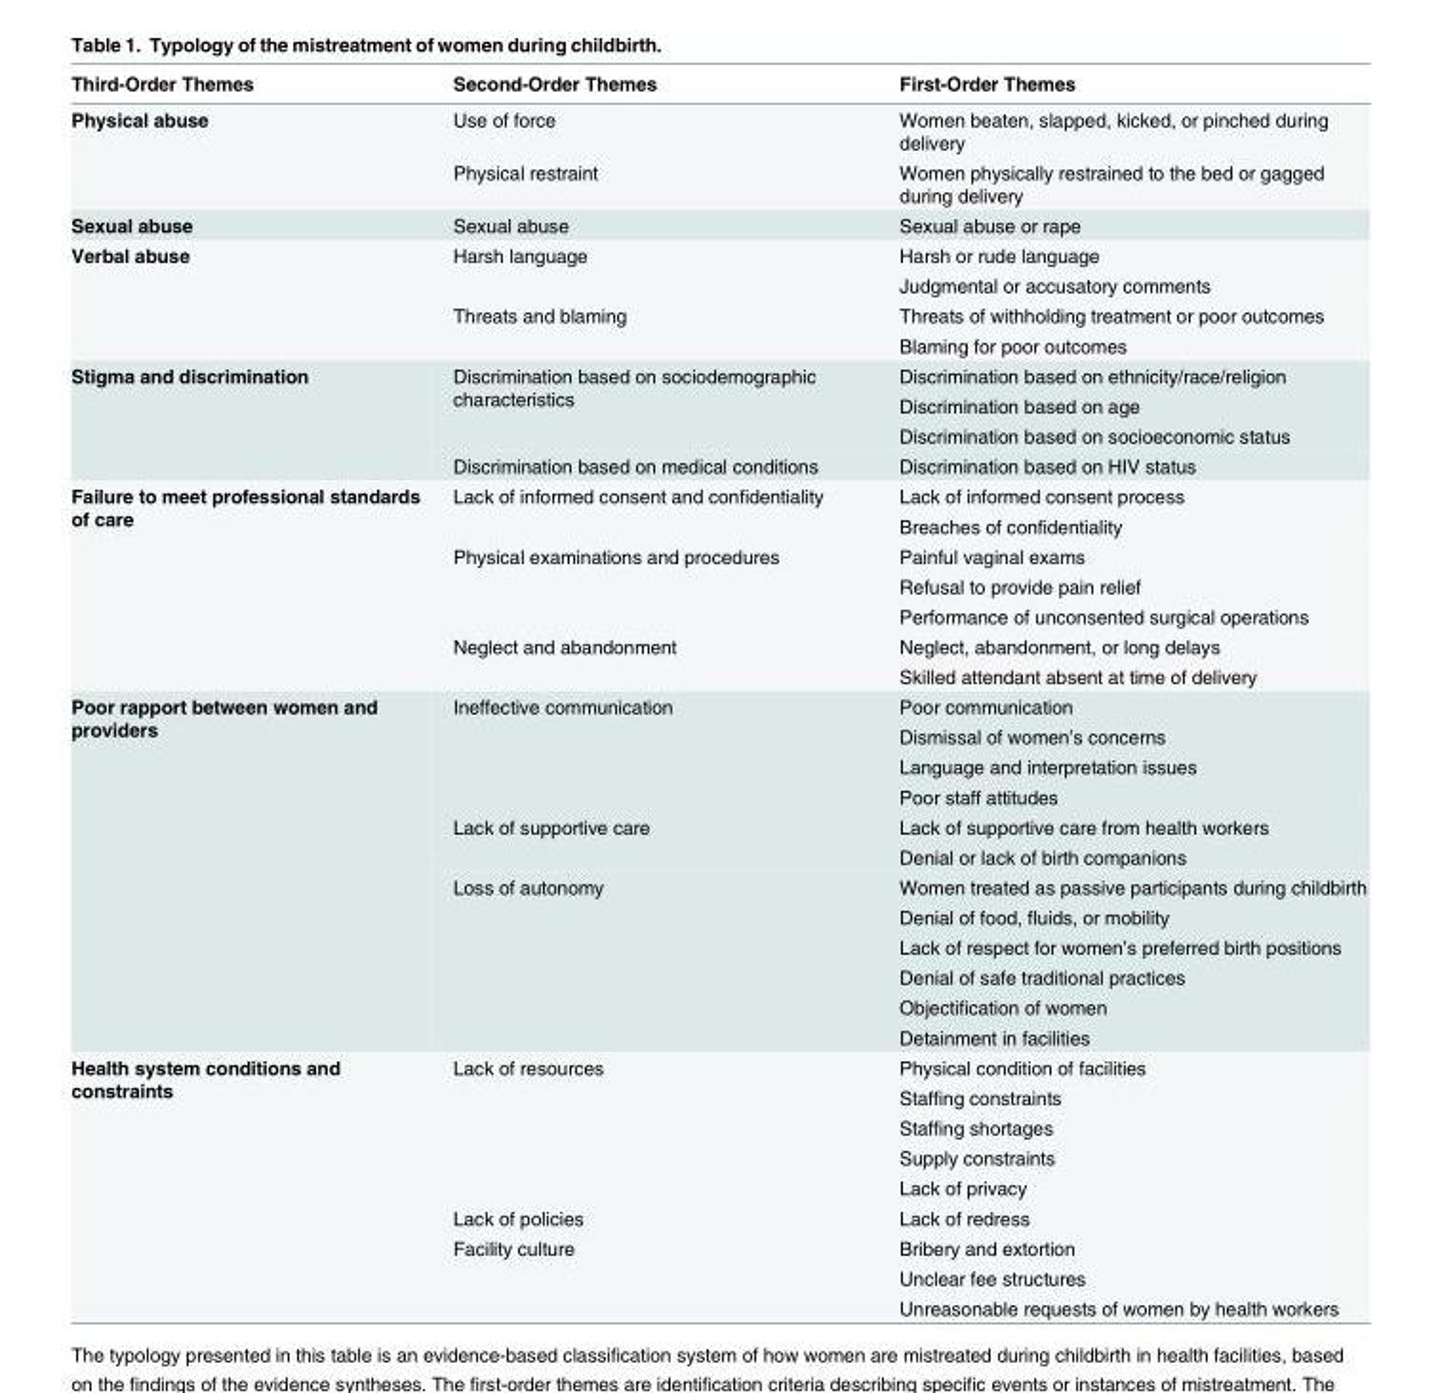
<table><thead><tr><td>Third-Order Themes</td><td>Second-Order Themes</td><td>First-Order Themes</td></tr></thead><tbody><tr><td rowspan="2">Physical abuse</td><td>Use of force</td><td>Women beaten, slapped, kicked, or pinched during delivery</td></tr><tr><td>Physical restraint</td><td>Women physically restrained to the bed or gagged during delivery</td></tr><tr><td>Sexual abuse</td><td>Sexual abuse</td><td>Sexual abuse or rape</td></tr><tr><td rowspan="4">Verbal abuse</td><td rowspan="2">Harsh language</td><td>Harsh or rude language</td></tr><tr><td>Judgmental or accusatory comments</td></tr><tr><td rowspan="2">Threats and blaming</td><td>Threats of withholding treatment or poor outcomes</td></tr><tr><td>Blaming for poor outcomes</td></tr><tr><td rowspan="4">Stigma and discrimination</td><td rowspan="3">Discrimination based on sociodemographic characteristics</td><td>Discrimination based on ethnicity/race/religion</td></tr><tr><td>Discrimination based on age</td></tr><tr><td>Discrimination based on socioeconomic status</td></tr><tr><td>Discrimination based on medical conditions</td><td>Discrimination based on HIV status</td></tr><tr><td rowspan="7">Failure to meet professional standards of care</td><td rowspan="2">Lack of informed consent and confidentiality</td><td>Lack of informed consent process</td></tr><tr><td>Breaches of confidentiality</td></tr><tr><td rowspan="3">Physical examinations and procedures</td><td>Painful vaginal exams</td></tr><tr><td>Refusal to provide pain relief</td></tr><tr><td>Performance of unconsented surgical operations</td></tr><tr><td rowspan="2">Neglect and abandonment</td><td>Neglect, abandonment, or long delays</td></tr><tr><td>Skilled attendant absent at time of delivery</td></tr><tr><td rowspan="12">Poor rapport between women and providers</td><td rowspan="4">Ineffective communication</td><td>Poor communication</td></tr><tr><td>Dismissal of women’s concerns</td></tr><tr><td>Language and interpretation issues</td></tr><tr><td>Poor staff attitudes</td></tr><tr><td rowspan="2">Lack of supportive care</td><td>Lack of supportive care from health workers</td></tr><tr><td>Denial or lack of birth companions</td></tr><tr><td rowspan="6">Loss of autonomy</td><td>Women treated as passive participants during childbirth</td></tr><tr><td>Denial of food, fluids, or mobility</td></tr><tr><td>Lack of respect for women’s preferred birth positions</td></tr><tr><td>Denial of safe traditional practices</td></tr><tr><td>Objectification of women</td></tr><tr><td>Detainment in facilities</td></tr><tr><td rowspan="9">Health system conditions and constraints</td><td rowspan="5">Lack of resources</td><td>Physical condition of facilities</td></tr><tr><td>Staffing constraints</td></tr><tr><td>Staffing shortages</td></tr><tr><td>Supply constraints</td></tr><tr><td>Lack of privacy</td></tr><tr><td>Lack of policies</td><td>Lack of redress</td></tr><tr><td rowspan="3">Facility culture</td><td>Bribery and extortion</td></tr><tr><td>Unclear fee structures</td></tr><tr><td>Unreasonable requests of women by health workers</td></tr></tbody></table>